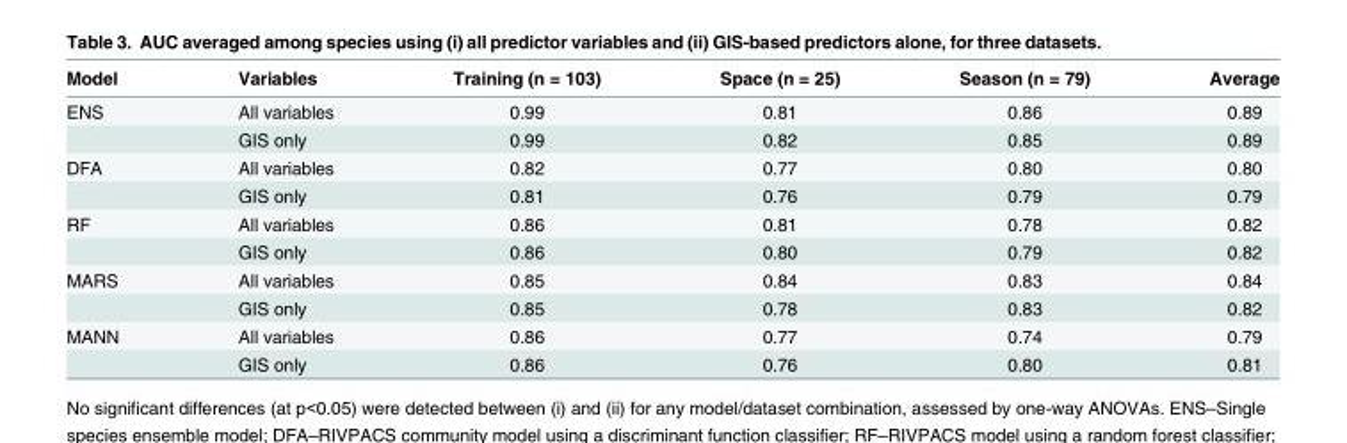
<table><thead><tr><td>Model</td><td>Variables</td><td>Training (n = 103)</td><td>Space (n = 25)</td><td>Season (n = 79)</td><td>Average</td></tr></thead><tbody><tr><td rowspan="2">ENS</td><td>All variables</td><td>0.99</td><td>0.81</td><td>0.86</td><td>0.89</td></tr><tr><td>GIS only</td><td>0.99</td><td>0.82</td><td>0.85</td><td>0.89</td></tr><tr><td rowspan="2">DFA</td><td>All variables</td><td>0.82</td><td>0.77</td><td>0.80</td><td>0.80</td></tr><tr><td>GIS only</td><td>0.81</td><td>0.76</td><td>0.79</td><td>0.79</td></tr><tr><td rowspan="2">RF</td><td>All variables</td><td>0.86</td><td>0.81</td><td>0.78</td><td>0.82</td></tr><tr><td>GIS only</td><td>0.86</td><td>0.80</td><td>0.79</td><td>0.82</td></tr><tr><td rowspan="2">MARS</td><td>All variables</td><td>0.85</td><td>0.84</td><td>0.83</td><td>0.84</td></tr><tr><td>GIS only</td><td>0.85</td><td>0.78</td><td>0.83</td><td>0.82</td></tr><tr><td rowspan="2">MANN</td><td>All variables</td><td>0.86</td><td>0.77</td><td>0.74</td><td>0.79</td></tr><tr><td>GIS only</td><td>0.86</td><td>0.76</td><td>0.80</td><td>0.81</td></tr></tbody></table>